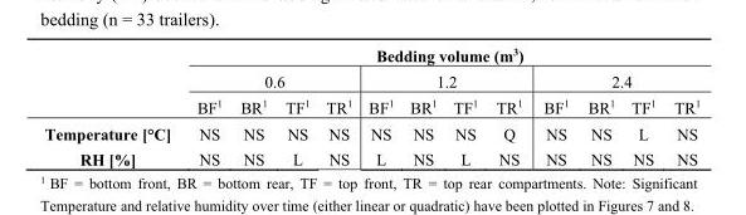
<table><thead><tr><td rowspan="3"></td><td colspan="12">Bedding volume (m<sup>3</sup>)</td></tr><tr><td colspan="4">0.6</td><td colspan="4">1.2</td><td colspan="4">2.4</td></tr><tr><td>BF<sup>1</sup></td><td>BR<sup>1</sup></td><td>TF<sup>1</sup></td><td>TR<sup>1</sup></td><td>BF<sup>1</sup></td><td>BR<sup>1</sup></td><td>TF<sup>1</sup></td><td>TR<sup>1</sup></td><td>BF<sup>1</sup></td><td>BR<sup>1</sup></td><td>TF<sup>1</sup></td><td>TR<sup>1</sup></td></tr></thead><tbody><tr><td>Temperature [°C]</td><td>NS</td><td>NS</td><td>NS</td><td>NS</td><td>NS</td><td>NS</td><td>NS</td><td>Q</td><td>NS</td><td>NS</td><td>L</td><td>NS</td></tr><tr><td>RH [%]</td><td>NS</td><td>NS</td><td>L</td><td>NS</td><td>L</td><td>NS</td><td>L</td><td>NS</td><td>NS</td><td>NS</td><td>NS</td><td>NS</td></tr></tbody></table>